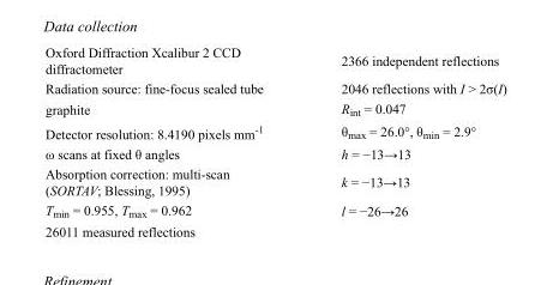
<table><tbody><tr><td>Oxford Diffraction Xcalibur 2 CCD diffractometer</td><td>2366 independent reflections</td></tr><tr><td>Radiation source: fine-focus sealed tube</td><td>2046 reflections with I &gt; 2σ(I)</td></tr><tr><td>graphite</td><td>R<sub>int</sub> = 0.047</td></tr><tr><td>Detector resolution: 8.4190 pixels mm<sup>-1</sup></td><td>θ<sub>max</sub> = 26.0°, θ<sub>min</sub> = 2.9°</td></tr><tr><td>ω scans at fixed θ angles</td><td>h = −13→13</td></tr><tr><td>Absorption correction: multi-scan (SORTAV; Blessing, 1995)</td><td>k = −13→13</td></tr><tr><td>T<sub>min</sub> = 0.955, T<sub>max</sub> = 0.962</td><td>l = −26→26</td></tr><tr><td>26011 measured reflections</td><td></td></tr></tbody></table>